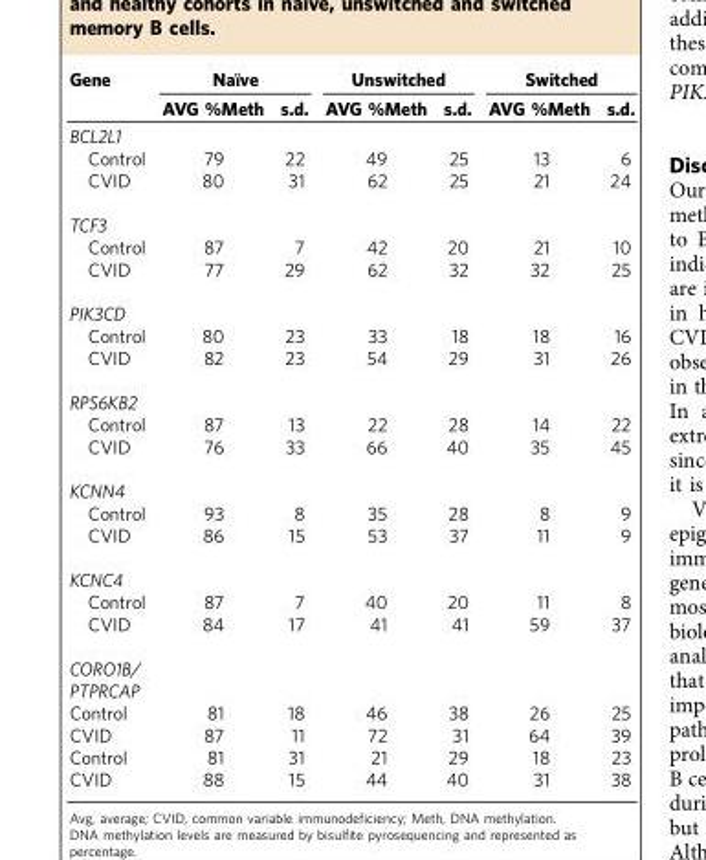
<table><thead><tr><td rowspan="2">Gene</td><td colspan="2">Naı¨ve</td><td colspan="2">Unswitched</td><td colspan="2">Switched</td></tr><tr><td>AVG %Meth</td><td>s.d.</td><td>AVG %Meth</td><td>s.d.</td><td>AVG %Meth</td><td>s.d.</td></tr></thead><tbody><tr><td colspan="7">BCL2L1</td></tr><tr><td>Control</td><td>79</td><td>22</td><td>49</td><td>25</td><td>13</td><td>6</td></tr><tr><td>CVID</td><td>80</td><td>31</td><td>62</td><td>25</td><td>21</td><td>24</td></tr><tr><td colspan="7">TCF3</td></tr><tr><td>Control</td><td>87</td><td>7</td><td>42</td><td>20</td><td>21</td><td>10</td></tr><tr><td>CVID</td><td>77</td><td>29</td><td>62</td><td>32</td><td>32</td><td>25</td></tr><tr><td colspan="7">PIK3CD</td></tr><tr><td>Control</td><td>80</td><td>23</td><td>33</td><td>18</td><td>18</td><td>16</td></tr><tr><td>CVID</td><td>82</td><td>23</td><td>54</td><td>29</td><td>31</td><td>26</td></tr><tr><td colspan="7">RPS6KB2</td></tr><tr><td>Control</td><td>87</td><td>13</td><td>22</td><td>28</td><td>14</td><td>22</td></tr><tr><td>CVID</td><td>76</td><td>33</td><td>66</td><td>40</td><td>35</td><td>45</td></tr><tr><td colspan="7">KCNN4</td></tr><tr><td>Control</td><td>93</td><td>8</td><td>35</td><td>28</td><td>8</td><td>9</td></tr><tr><td>CVID</td><td>86</td><td>15</td><td>53</td><td>37</td><td>11</td><td>9</td></tr><tr><td colspan="7">KCNC4</td></tr><tr><td>Control</td><td>87</td><td>7</td><td>40</td><td>20</td><td>11</td><td>8</td></tr><tr><td>CVID</td><td>84</td><td>17</td><td>41</td><td>41</td><td>59</td><td>37</td></tr><tr><td colspan="7">CORO1B/ PTPRCAP</td></tr><tr><td>Control</td><td>81</td><td>18</td><td>46</td><td>38</td><td>26</td><td>25</td></tr><tr><td>CVID</td><td>87</td><td>11</td><td>72</td><td>31</td><td>64</td><td>39</td></tr><tr><td>Control</td><td>81</td><td>31</td><td>21</td><td>29</td><td>18</td><td>23</td></tr><tr><td>CVID</td><td>88</td><td>15</td><td>44</td><td>40</td><td>31</td><td>38</td></tr></tbody></table>